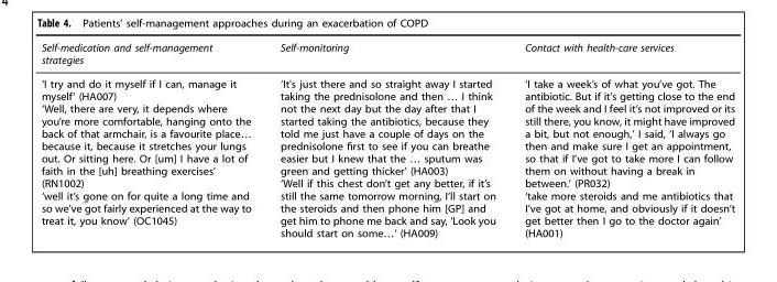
<table><thead><tr><td>Self-medication and self-management strategies</td><td>Self-monitoring</td><td>Contact with health-care services</td></tr></thead><tbody><tr><td>‘I try and do it myself if I can, manage it myself’ (HA007) ‘Well, there are very, it depends where you’re more comfortable, hanging onto the back of that armchair, is a favourite place… because it, because it stretches your lungs out. Or sitting here. Or [um] I have a lot of faith in the [uh] breathing exercises’ (RN1002) ‘well it’s gone on for quite a long time and so we’ve got fairly experienced at the way to treat it, you know’ (OC1045)</td><td>‘It&#x27;s just there and so straight away I started taking the prednisolone and then … I think not the next day but the day after that I started taking the antibiotics, because they told me just have a couple of days on the prednisolone first to see if you can breathe easier but I knew that the … sputum was green and getting thicker’ (HA003) ‘Well if this chest don’t get any better, if it’s still the same tomorrow morning, I’ll start on the steroids and then phone him [GP] and get him to phone me back and say, ‘Look you should start on some…’ (HA009)</td><td>‘I take a week’s of what you’ve got. The antibiotic. But if it&#x27;s getting close to the end of the week and I feel it’s not improved or its still there, you know, it might have improved a bit, but not enough,’ I said, ‘I always go then and make sure I get an appointment, so that if I’ve got to take more I can follow them on without having a break in between.’ (PR032) ‘take more steroids and me antibiotics that I’ve got at home, and obviously if it doesn’t get better then I go to the doctor again’ (HA001)</td></tr></tbody></table>